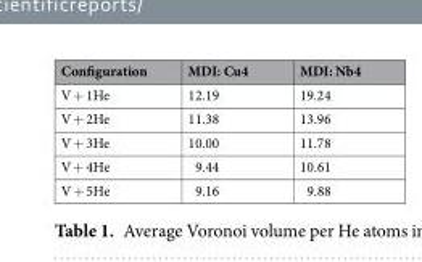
<table><thead><tr><td>Configuration</td><td>MDI: Cu4</td><td>MDI: Nb4</td></tr></thead><tbody><tr><td>V + 1He</td><td>12.19</td><td>19.24</td></tr><tr><td>V + 2He</td><td>11.38</td><td>13.96</td></tr><tr><td>V + 3He</td><td>10.00</td><td>11.78</td></tr><tr><td>V + 4He</td><td>9.44</td><td>10.61</td></tr><tr><td>V + 5He</td><td>9.16</td><td>9.88</td></tr></tbody></table>